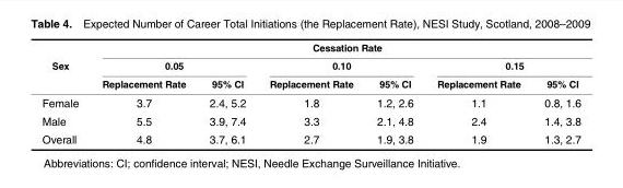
<table><thead><tr><td rowspan="3">Sex</td><td colspan="6">Cessation Rate</td></tr><tr><td colspan="2">0.05</td><td colspan="2">0.10</td><td colspan="2">0.15</td></tr><tr><td>Replacement Rate</td><td>95% CI</td><td>Replacement Rate</td><td>95% CI</td><td>Replacement Rate</td><td>95% CI</td></tr></thead><tbody><tr><td>Female</td><td>3.7</td><td>2.4, 5.2</td><td>1.8</td><td>1.2, 2.6</td><td>1.1</td><td>0.8, 1.6</td></tr><tr><td>Male</td><td>5.5</td><td>3.9, 7.4</td><td>3.3</td><td>2.1, 4.8</td><td>2.4</td><td>1.4, 3.8</td></tr><tr><td>Overall</td><td>4.8</td><td>3.7, 6.1</td><td>2.7</td><td>1.9, 3.8</td><td>1.9</td><td>1.3, 2.7</td></tr></tbody></table>